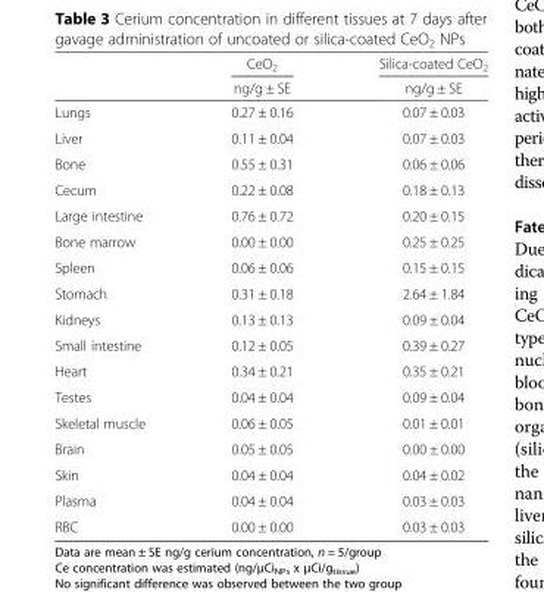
<table><thead><tr><td rowspan="2"></td><td rowspan="2">CeO<sub>2</sub> ng/g ± SE</td><td rowspan="2">Silica-coated CeO<sub>2</sub> ng/g ± SE</td></tr><tr></tr></thead><tbody><tr><td>Lungs</td><td>0.27 ± 0.16</td><td>0.07 ± 0.03</td></tr><tr><td>Liver</td><td>0.11 ± 0.04</td><td>0.07 ± 0.03</td></tr><tr><td>Bone</td><td>0.55 ± 0.31</td><td>0.06 ± 0.06</td></tr><tr><td>Cecum</td><td>0.22 ± 0.08</td><td>0.18 ± 0.13</td></tr><tr><td>Large intestine</td><td>0.76 ± 0.72</td><td>0.20 ± 0.15</td></tr><tr><td>Bone marrow</td><td>0.00 ± 0.00</td><td>0.25 ± 0.25</td></tr><tr><td>Spleen</td><td>0.06 ± 0.06</td><td>0.15 ± 0.15</td></tr><tr><td>Stomach</td><td>0.31 ± 0.18</td><td>2.64 ± 1.84</td></tr><tr><td>Kidneys</td><td>0.13 ± 0.13</td><td>0.09 ± 0.04</td></tr><tr><td>Small intestine</td><td>0.12 ± 0.05</td><td>0.39 ± 0.27</td></tr><tr><td>Heart</td><td>0.34 ± 0.21</td><td>0.35 ± 0.21</td></tr><tr><td>Testes</td><td>0.04 ± 0.04</td><td>0.09 ± 0.04</td></tr><tr><td>Skeletal muscle</td><td>0.06 ± 0.05</td><td>0.01 ± 0.01</td></tr><tr><td>Brain</td><td>0.05 ± 0.05</td><td>0.00 ± 0.00</td></tr><tr><td>Skin</td><td>0.04 ± 0.04</td><td>0.04 ± 0.02</td></tr><tr><td>Plasma</td><td>0.04 ± 0.04</td><td>0.03 ± 0.03</td></tr><tr><td>RBC</td><td>0.00 ± 0.00</td><td>0.03 ± 0.03</td></tr></tbody></table>